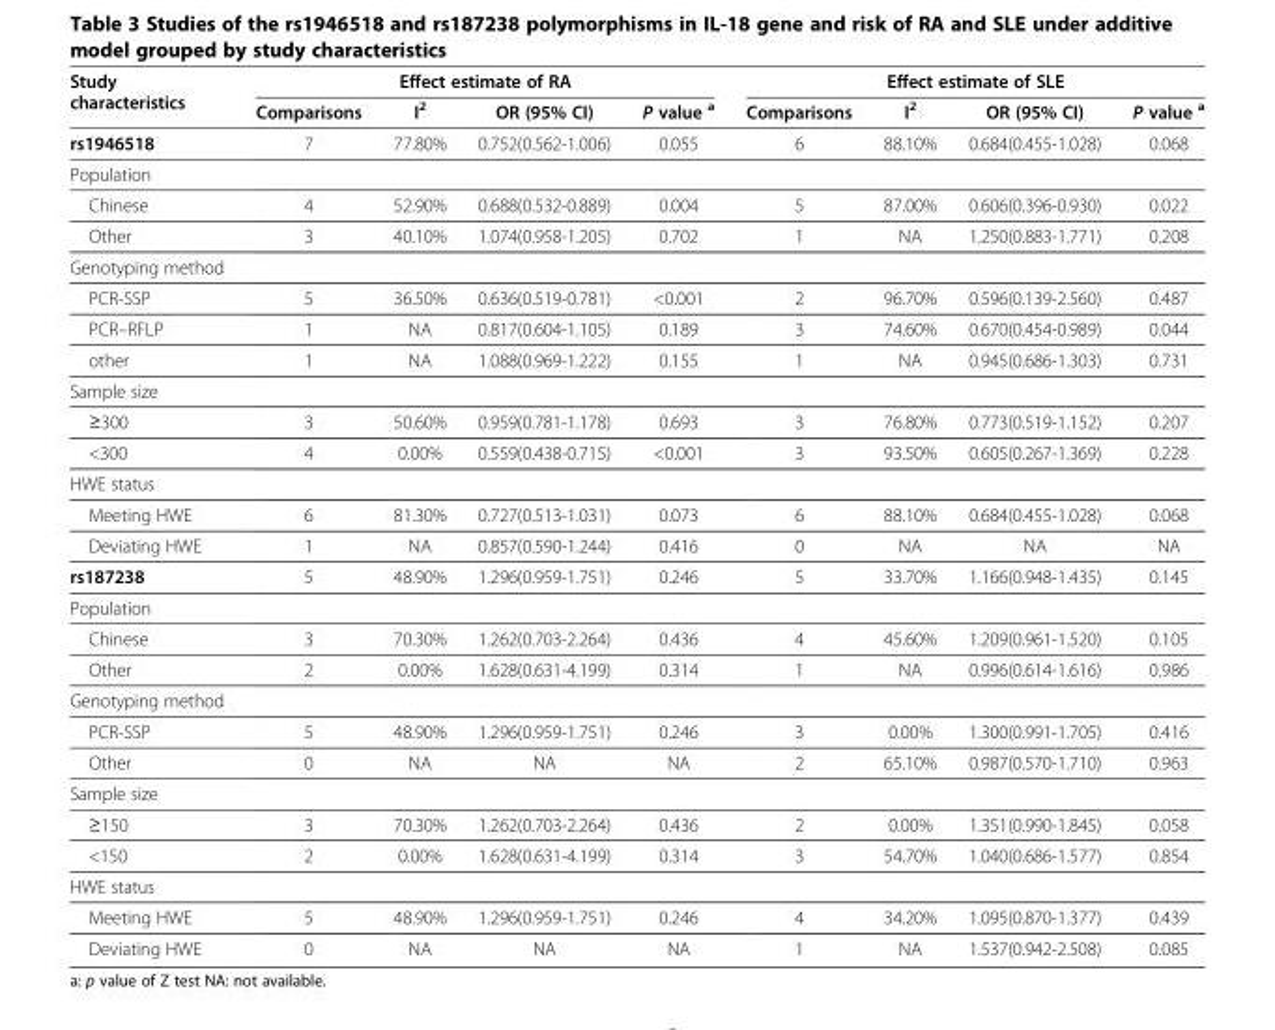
<table><thead><tr><td rowspan="2">Study characteristics</td><td colspan="4">Effect estimate of RA</td><td colspan="4">Effect estimate of SLE</td></tr><tr><td>Comparisons</td><td>I<sup>2</sup></td><td>OR (95% CI)</td><td>P value <sup>a</sup></td><td>Comparisons</td><td>I<sup>2</sup></td><td>OR (95% CI)</td><td>P value <sup>a</sup></td></tr></thead><tbody><tr><td>rs1946518</td><td>7</td><td>77.80%</td><td>0.752(0.562-1.006)</td><td>0.055</td><td>6</td><td>88.10%</td><td>0.684(0.455-1.028)</td><td>0.068</td></tr><tr><td colspan="9">Population</td></tr><tr><td>Chinese</td><td>4</td><td>52.90%</td><td>0.688(0.532-0.889)</td><td>0.004</td><td>5</td><td>87.00%</td><td>0.606(0.396-0.930)</td><td>0.022</td></tr><tr><td>Other</td><td>3</td><td>40.10%</td><td>1.074(0.958-1.205)</td><td>0.702</td><td>1</td><td>NA</td><td>1.250(0.883-1.771)</td><td>0.208</td></tr><tr><td colspan="9">Genotyping method</td></tr><tr><td>PCR-SSP</td><td>5</td><td>36.50%</td><td>0.636(0.519-0.781)</td><td>&lt;0.001</td><td>2</td><td>96.70%</td><td>0.596(0.139-2.560)</td><td>0.487</td></tr><tr><td>PCR–RFLP</td><td>1</td><td>NA</td><td>0.817(0.604-1.105)</td><td>0.189</td><td>3</td><td>74.60%</td><td>0.670(0.454-0.989)</td><td>0.044</td></tr><tr><td>other</td><td>1</td><td>NA</td><td>1.088(0.969-1.222)</td><td>0.155</td><td>1</td><td>NA</td><td>0.945(0.686-1.303)</td><td>0.731</td></tr><tr><td colspan="9">Sample size</td></tr><tr><td>≥300</td><td>3</td><td>50.60%</td><td>0.959(0.781-1.178)</td><td>0.693</td><td>3</td><td>76.80%</td><td>0.773(0.519-1.152)</td><td>0.207</td></tr><tr><td>&lt;300</td><td>4</td><td>0.00%</td><td>0.559(0.438-0.715)</td><td>&lt;0.001</td><td>3</td><td>93.50%</td><td>0.605(0.267-1.369)</td><td>0.228</td></tr><tr><td colspan="9">HWE status</td></tr><tr><td>Meeting HWE</td><td>6</td><td>81.30%</td><td>0.727(0.513-1.031)</td><td>0.073</td><td>6</td><td>88.10%</td><td>0.684(0.455-1.028)</td><td>0.068</td></tr><tr><td>Deviating HWE</td><td>1</td><td>NA</td><td>0.857(0.590-1.244)</td><td>0.416</td><td>0</td><td>NA</td><td>NA</td><td>NA</td></tr><tr><td>rs187238</td><td>5</td><td>48.90%</td><td>1.296(0.959-1.751)</td><td>0.246</td><td>5</td><td>33.70%</td><td>1.166(0.948-1.435)</td><td>0.145</td></tr><tr><td colspan="9">Population</td></tr><tr><td>Chinese</td><td>3</td><td>70.30%</td><td>1.262(0.703-2.264)</td><td>0.436</td><td>4</td><td>45.60%</td><td>1.209(0.961-1.520)</td><td>0.105</td></tr><tr><td>Other</td><td>2</td><td>0.00%</td><td>1.628(0.631-4.199)</td><td>0.314</td><td>1</td><td>NA</td><td>0.996(0.614-1.616)</td><td>0.986</td></tr><tr><td colspan="9">Genotyping method</td></tr><tr><td>PCR-SSP</td><td>5</td><td>48.90%</td><td>1.296(0.959-1.751)</td><td>0.246</td><td>3</td><td>0.00%</td><td>1.300(0.991-1.705)</td><td>0.416</td></tr><tr><td>Other</td><td>0</td><td>NA</td><td>NA</td><td>NA</td><td>2</td><td>65.10%</td><td>0.987(0.570-1.710)</td><td>0.963</td></tr><tr><td colspan="9">Sample size</td></tr><tr><td>≥150</td><td>3</td><td>70.30%</td><td>1.262(0.703-2.264)</td><td>0.436</td><td>2</td><td>0.00%</td><td>1.351(0.990-1.845)</td><td>0.058</td></tr><tr><td>&lt;150</td><td>2</td><td>0.00%</td><td>1.628(0.631-4.199)</td><td>0.314</td><td>3</td><td>54.70%</td><td>1.040(0.686-1.577)</td><td>0.854</td></tr><tr><td colspan="9">HWE status</td></tr><tr><td>Meeting HWE</td><td>5</td><td>48.90%</td><td>1.296(0.959-1.751)</td><td>0.246</td><td>4</td><td>34.20%</td><td>1.095(0.870-1.377)</td><td>0.439</td></tr><tr><td>Deviating HWE</td><td>0</td><td>NA</td><td>NA</td><td>NA</td><td>1</td><td>NA</td><td>1.537(0.942-2.508)</td><td>0.085</td></tr></tbody></table>